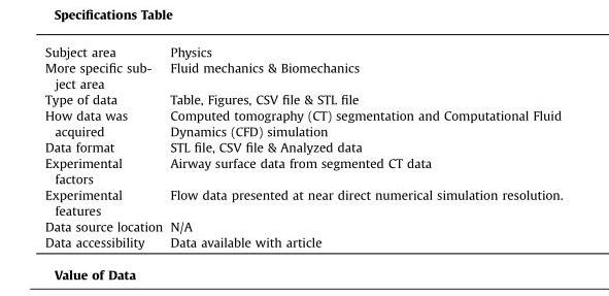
<table><tbody><tr><td>Subject area</td><td>Physics</td></tr><tr><td>More specific sub- ject area</td><td>Fluid mechanics &amp; Biomechanics</td></tr><tr><td>Type of data</td><td>Table, Figures, CSV file &amp; STL file</td></tr><tr><td>How data was acquired</td><td>Computed tomography (CT) segmentation and Computational Fluid Dynamics (CFD) simulation</td></tr><tr><td>Data format</td><td>STL file, CSV file &amp; Analyzed data</td></tr><tr><td>Experimental factors</td><td>Airway surface data from segmented CT data</td></tr><tr><td>Experimental features</td><td>Flow data presented at near direct numerical simulation resolution.</td></tr><tr><td>Data source location</td><td>N/A</td></tr><tr><td>Data accessibility</td><td>Data available with article</td></tr></tbody></table>